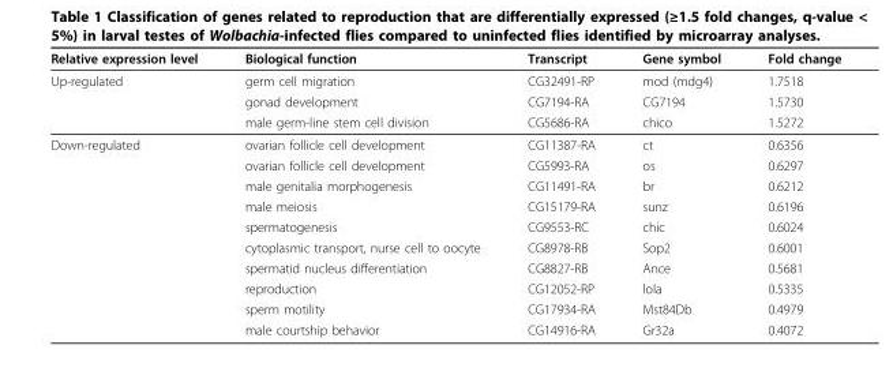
<table><thead><tr><td>Relative expression level</td><td>Biological function</td><td>Transcript</td><td>Gene symbol</td><td>Fold change</td></tr></thead><tbody><tr><td rowspan="3">Up-regulated</td><td>germ cell migration</td><td>CG32491-RP</td><td>mod (mdg4)</td><td>1.7518</td></tr><tr><td>gonad development</td><td>CG7194-RA</td><td>CG7194</td><td>1.5730</td></tr><tr><td>male germ-line stem cell division</td><td>CG5686-RA</td><td>chico</td><td>1.5272</td></tr><tr><td rowspan="10">Down-regulated</td><td>ovarian follicle cell development</td><td>CG11387-RA</td><td>ct</td><td>0.6356</td></tr><tr><td>ovarian follicle cell development</td><td>CG5993-RA</td><td>os</td><td>0.6297</td></tr><tr><td>male genitalia morphogenesis</td><td>CG11491-RA</td><td>br</td><td>0.6212</td></tr><tr><td>male meiosis</td><td>CG15179-RA</td><td>sunz</td><td>0.6196</td></tr><tr><td>spermatogenesis</td><td>CG9553-RC</td><td>chic</td><td>0.6024</td></tr><tr><td>cytoplasmic transport, nurse cell to oocyte</td><td>CG8978-RB</td><td>Sop2</td><td>0.6001</td></tr><tr><td>spermatid nucleus differentiation</td><td>CG8827-RB</td><td>Ance</td><td>0.5681</td></tr><tr><td>reproduction</td><td>CG12052-RP</td><td>lola</td><td>0.5335</td></tr><tr><td>sperm motility</td><td>CG17934-RA</td><td>Mst84Db</td><td>0.4979</td></tr><tr><td>male courtship behavior</td><td>CG14916-RA</td><td>Gr32a</td><td>0.4072</td></tr></tbody></table>